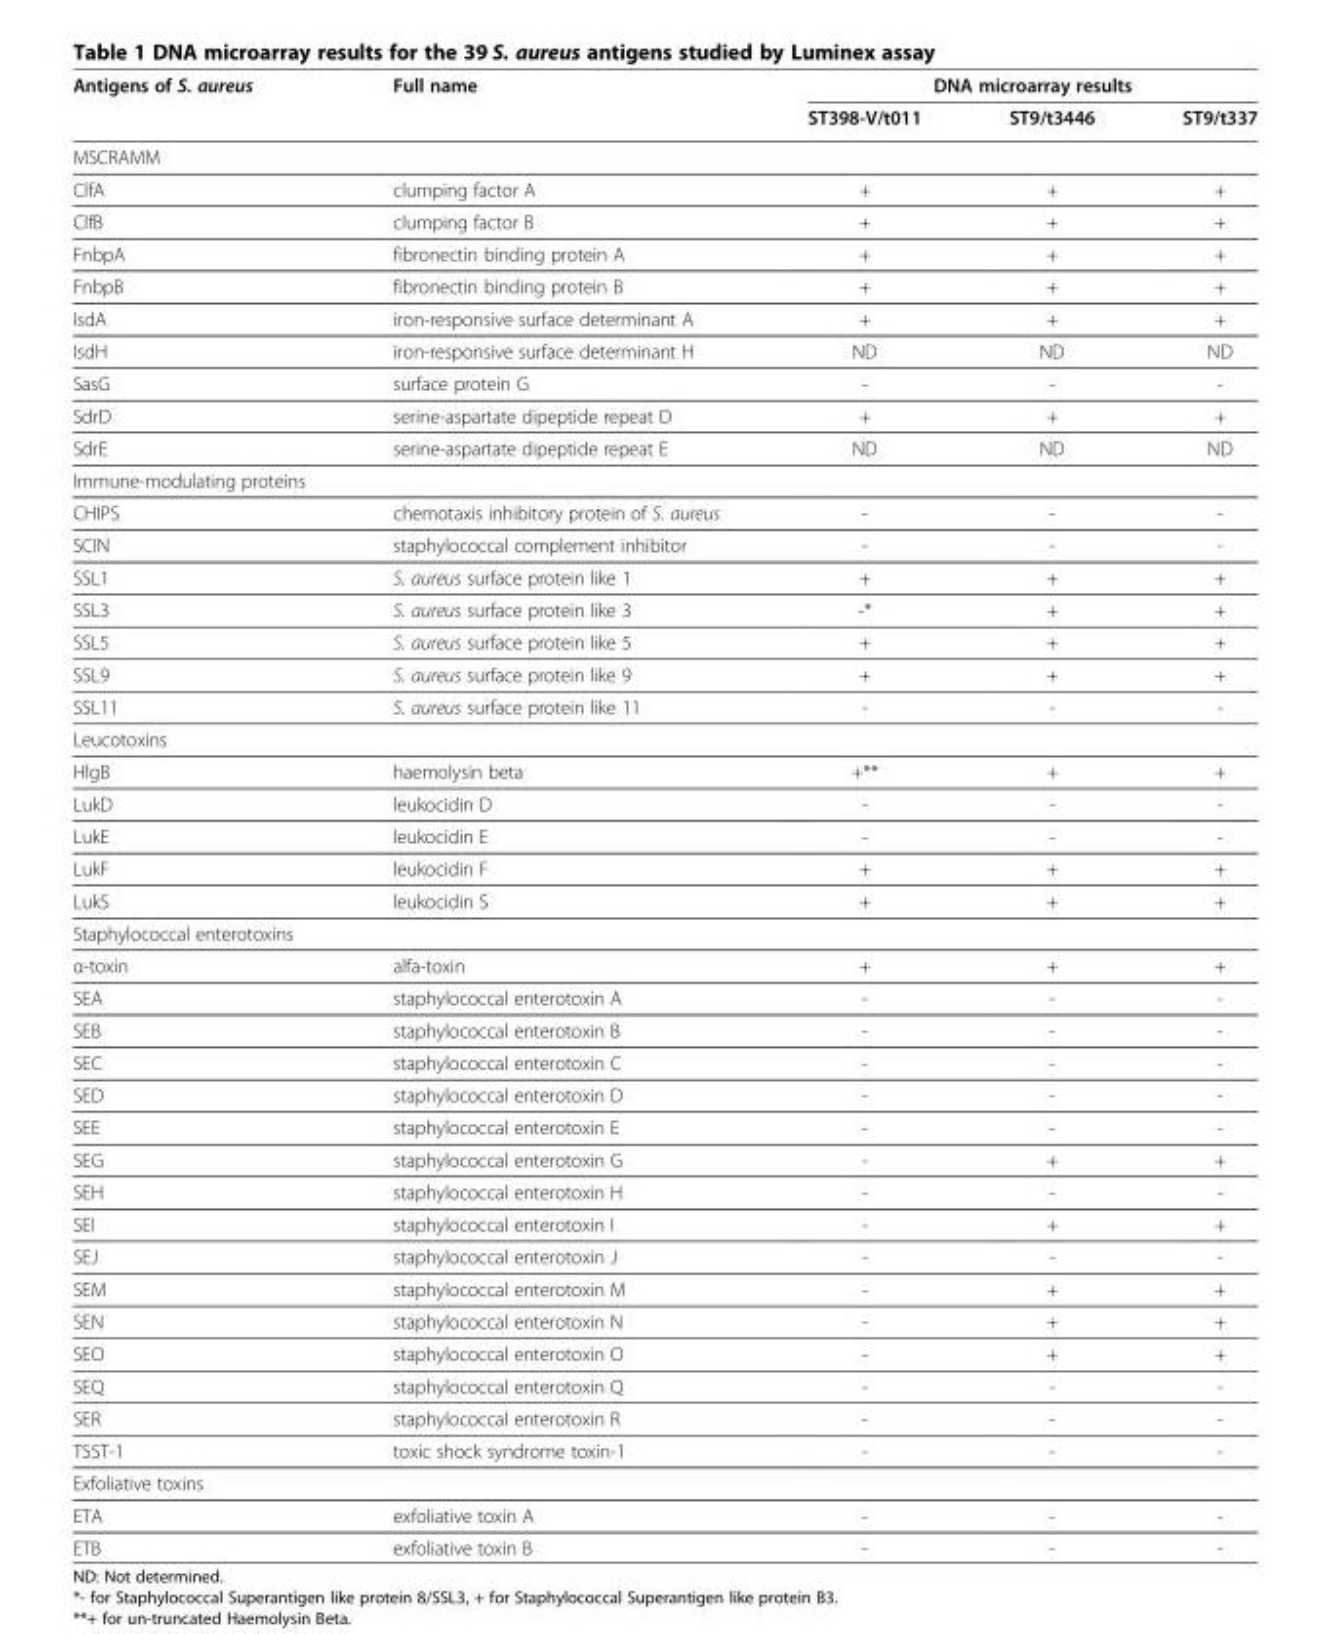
<table><thead><tr><td rowspan="2">Antigens of S. aureus</td><td rowspan="2">Full name</td><td colspan="3">DNA microarray results</td></tr><tr><td>ST398-V/t011</td><td>ST9/t3446</td><td>ST9/t337</td></tr></thead><tbody><tr><td colspan="5">MSCRAMM</td></tr><tr><td>ClfA</td><td>clumping factor A</td><td>+</td><td>+</td><td>+</td></tr><tr><td>ClfB</td><td>clumping factor B</td><td>+</td><td>+</td><td>+</td></tr><tr><td>FnbpA</td><td>fibronectin binding protein A</td><td>+</td><td>+</td><td>+</td></tr><tr><td>FnbpB</td><td>fibronectin binding protein B</td><td>+</td><td>+</td><td>+</td></tr><tr><td>IsdA</td><td>iron-responsive surface determinant A</td><td>+</td><td>+</td><td>+</td></tr><tr><td>IsdH</td><td>iron-responsive surface determinant H</td><td>ND</td><td>ND</td><td>ND</td></tr><tr><td>SasG</td><td>surface protein G</td><td>-</td><td>-</td><td>-</td></tr><tr><td>SdrD</td><td>serine-aspartate dipeptide repeat D</td><td>+</td><td>+</td><td>+</td></tr><tr><td>SdrE</td><td>serine-aspartate dipeptide repeat E</td><td>ND</td><td>ND</td><td>ND</td></tr><tr><td colspan="5">Immune-modulating proteins</td></tr><tr><td>CHIPS</td><td>chemotaxis inhibitory protein of S. aureus</td><td>-</td><td>-</td><td>-</td></tr><tr><td>SCIN</td><td>staphylococcal complement inhibitor</td><td>-</td><td>-</td><td>-</td></tr><tr><td>SSL1</td><td>S. aureus surface protein like 1</td><td>+</td><td>+</td><td>+</td></tr><tr><td>SSL3</td><td>S. aureus surface protein like 3</td><td>-*</td><td>+</td><td>+</td></tr><tr><td>SSL5</td><td>S. aureus surface protein like 5</td><td>+</td><td>+</td><td>+</td></tr><tr><td>SSL9</td><td>S. aureus surface protein like 9</td><td>+</td><td>+</td><td>+</td></tr><tr><td>SSL11</td><td>S. aureus surface protein like 11</td><td>-</td><td>-</td><td>-</td></tr><tr><td colspan="5">Leucotoxins</td></tr><tr><td>HlgB</td><td>haemolysin beta</td><td>+**</td><td>+</td><td>+</td></tr><tr><td>LukD</td><td>leukocidin D</td><td>-</td><td>-</td><td>-</td></tr><tr><td>LukE</td><td>leukocidin E</td><td>-</td><td>-</td><td>-</td></tr><tr><td>LukF</td><td>leukocidin F</td><td>+</td><td>+</td><td>+</td></tr><tr><td>LukS</td><td>leukocidin S</td><td>+</td><td>+</td><td>+</td></tr><tr><td colspan="5">Staphylococcal enterotoxins</td></tr><tr><td>α-toxin</td><td>alfa-toxin</td><td>+</td><td>+</td><td>+</td></tr><tr><td>SEA</td><td>staphylococcal enterotoxin A</td><td>-</td><td>-</td><td>-</td></tr><tr><td>SEB</td><td>staphylococcal enterotoxin B</td><td>-</td><td>-</td><td>-</td></tr><tr><td>SEC</td><td>staphylococcal enterotoxin C</td><td>-</td><td>-</td><td>-</td></tr><tr><td>SED</td><td>staphylococcal enterotoxin D</td><td>-</td><td>-</td><td>-</td></tr><tr><td>SEE</td><td>staphylococcal enterotoxin E</td><td>-</td><td>-</td><td>-</td></tr><tr><td>SEG</td><td>staphylococcal enterotoxin G</td><td>-</td><td>+</td><td>+</td></tr><tr><td>SEH</td><td>staphylococcal enterotoxin H</td><td>-</td><td>-</td><td>-</td></tr><tr><td>SEI</td><td>staphylococcal enterotoxin I</td><td>-</td><td>+</td><td>+</td></tr><tr><td>SEJ</td><td>staphylococcal enterotoxin J</td><td>-</td><td>-</td><td>-</td></tr><tr><td>SEM</td><td>staphylococcal enterotoxin M</td><td>-</td><td>+</td><td>+</td></tr><tr><td>SEN</td><td>staphylococcal enterotoxin N</td><td>-</td><td>+</td><td>+</td></tr><tr><td>SEO</td><td>staphylococcal enterotoxin O</td><td>-</td><td>+</td><td>+</td></tr><tr><td>SEQ</td><td>staphylococcal enterotoxin Q</td><td>-</td><td>-</td><td>-</td></tr><tr><td>SER</td><td>staphylococcal enterotoxin R</td><td>-</td><td>-</td><td>-</td></tr><tr><td>TSST-1</td><td>toxic shock syndrome toxin-1</td><td>-</td><td>-</td><td>-</td></tr><tr><td colspan="5">Exfoliative toxins</td></tr><tr><td>ETA</td><td>exfoliative toxin A</td><td>-</td><td>-</td><td>-</td></tr><tr><td>ETB</td><td>exfoliative toxin B</td><td>-</td><td>-</td><td>-</td></tr></tbody></table>